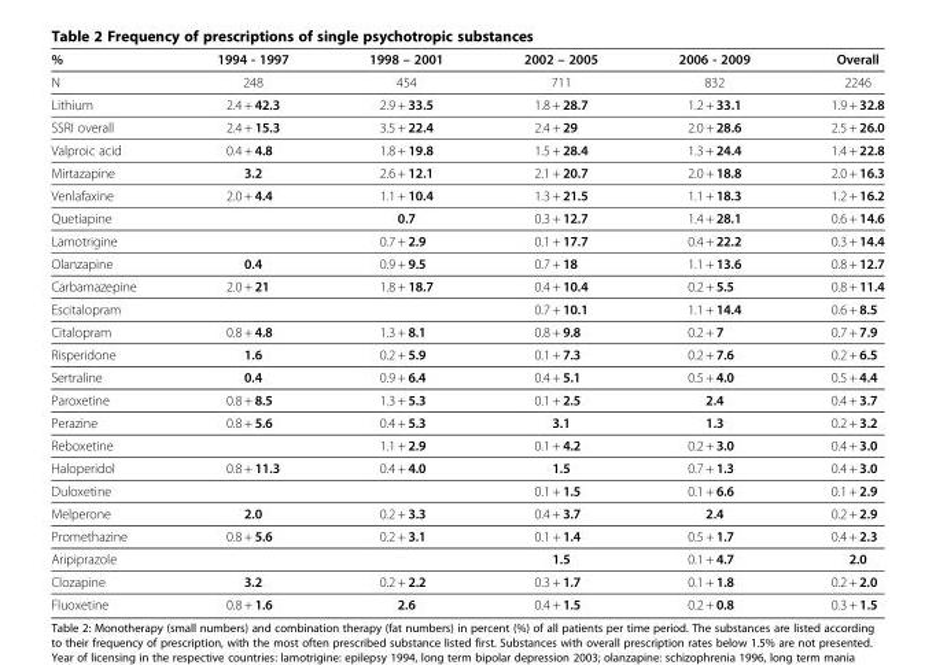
<table><thead><tr><td>%</td><td>1994 - 1997</td><td>1998 – 2001</td><td>2002 – 2005</td><td>2006 - 2009</td><td>Overall</td></tr></thead><tbody><tr><td>N</td><td>248</td><td>454</td><td>711</td><td>832</td><td>2246</td></tr><tr><td>Lithium</td><td>2.4 + 42.3</td><td>2.9 + 33.5</td><td>1.8 + 28.7</td><td>1.2 + 33.1</td><td>1.9 + 32.8</td></tr><tr><td>SSRI overall</td><td>2.4 + 15.3</td><td>3.5 + 22.4</td><td>2.4 + 29</td><td>2.0 + 28.6</td><td>2.5 + 26.0</td></tr><tr><td>Valproic acid</td><td>0.4 + 4.8</td><td>1.8 + 19.8</td><td>1.5 + 28.4</td><td>1.3 + 24.4</td><td>1.4 + 22.8</td></tr><tr><td>Mirtazapine</td><td>3.2</td><td>2.6 + 12.1</td><td>2.1 + 20.7</td><td>2.0 + 18.8</td><td>2.0 + 16.3</td></tr><tr><td>Venlafaxine</td><td>2.0 + 4.4</td><td>1.1 + 10.4</td><td>1.3 + 21.5</td><td>1.1 + 18.3</td><td>1.2 + 16.2</td></tr><tr><td>Quetiapine</td><td></td><td>0.7</td><td>0.3 + 12.7</td><td>1.4 + 28.1</td><td>0.6 + 14.6</td></tr><tr><td>Lamotrigine</td><td></td><td>0.7 + 2.9</td><td>0.1 + 17.7</td><td>0.4 + 22.2</td><td>0.3 + 14.4</td></tr><tr><td>Olanzapine</td><td>0.4</td><td>0.9 + 9.5</td><td>0.7 + 18</td><td>1.1 + 13.6</td><td>0.8 + 12.7</td></tr><tr><td>Carbamazepine</td><td>2.0 + 21</td><td>1.8 + 18.7</td><td>0.4 + 10.4</td><td>0.2 + 5.5</td><td>0.8 + 11.4</td></tr><tr><td>Escitalopram</td><td></td><td></td><td>0.7 + 10.1</td><td>1.1 + 14.4</td><td>0.6 + 8.5</td></tr><tr><td>Citalopram</td><td>0.8 + 4.8</td><td>1.3 + 8.1</td><td>0.8 + 9.8</td><td>0.2 + 7</td><td>0.7 + 7.9</td></tr><tr><td>Risperidone</td><td>1.6</td><td>0.2 + 5.9</td><td>0.1 + 7.3</td><td>0.2 + 7.6</td><td>0.2 + 6.5</td></tr><tr><td>Sertraline</td><td>0.4</td><td>0.9 + 6.4</td><td>0.4 + 5.1</td><td>0.5 + 4.0</td><td>0.5 + 4.4</td></tr><tr><td>Paroxetine</td><td>0.8 + 8.5</td><td>1.3 + 5.3</td><td>0.1 + 2.5</td><td>2.4</td><td>0.4 + 3.7</td></tr><tr><td>Perazine</td><td>0.8 + 5.6</td><td>0.4 + 5.3</td><td>3.1</td><td>1.3</td><td>0.2 + 3.2</td></tr><tr><td>Reboxetine</td><td></td><td>1.1 + 2.9</td><td>0.1 + 4.2</td><td>0.2 + 3.0</td><td>0.4 + 3.0</td></tr><tr><td>Haloperidol</td><td>0.8 + 11.3</td><td>0.4 + 4.0</td><td>1.5</td><td>0.7 + 1.3</td><td>0.4 + 3.0</td></tr><tr><td>Duloxetine</td><td></td><td></td><td>0.1 + 1.5</td><td>0.1 + 6.6</td><td>0.1 + 2.9</td></tr><tr><td>Melperone</td><td>2.0</td><td>0.2 + 3.3</td><td>0.4 + 3.7</td><td>2.4</td><td>0.2 + 2.9</td></tr><tr><td>Promethazine</td><td>0.8 + 5.6</td><td>0.2 + 3.1</td><td>0.1 + 1.4</td><td>0.5 + 1.7</td><td>0.4 + 2.3</td></tr><tr><td>Aripiprazole</td><td></td><td></td><td>1.5</td><td>0.1 + 4.7</td><td>2.0</td></tr><tr><td>Clozapine</td><td>3.2</td><td>0.2 + 2.2</td><td>0.3 + 1.7</td><td>0.1 + 1.8</td><td>0.2 + 2.0</td></tr><tr><td>Fluoxetine</td><td>0.8 + 1.6</td><td>2.6</td><td>0.4 + 1.5</td><td>0.2 + 0.8</td><td>0.3 + 1.5</td></tr></tbody></table>